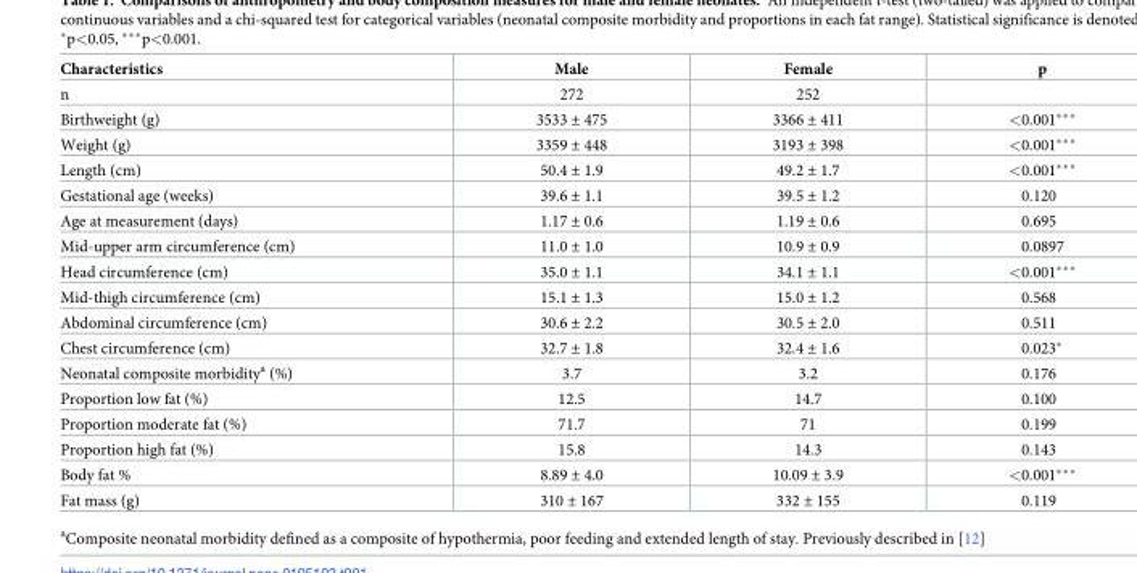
<table><thead><tr><td>Characteristics</td><td>Male</td><td>Female</td><td>p</td></tr></thead><tbody><tr><td>n</td><td>272</td><td>252</td><td></td></tr><tr><td>Birthweight (g)</td><td>3533 ± 475</td><td>3366 ± 411</td><td>&lt;0.001***</td></tr><tr><td>Weight (g)</td><td>3359 ± 448</td><td>3193 ± 398</td><td>&lt;0.001***</td></tr><tr><td>Length (cm)</td><td>50.4 ± 1.9</td><td>49.2 ± 1.7</td><td>&lt;0.001***</td></tr><tr><td>Gestational age (weeks)</td><td>39.6 ± 1.1</td><td>39.5 ± 1.2</td><td>0.120</td></tr><tr><td>Age at measurement (days)</td><td>1.17 ± 0.6</td><td>1.19 ± 0.6</td><td>0.695</td></tr><tr><td>Mid-upper arm circumference (cm)</td><td>11.0 ± 1.0</td><td>10.9 ± 0.9</td><td>0.0897</td></tr><tr><td>Head circumference (cm)</td><td>35.0 ± 1.1</td><td>34.1 ± 1.1</td><td>&lt;0.001***</td></tr><tr><td>Mid-thigh circumference (cm)</td><td>15.1 ± 1.3</td><td>15.0 ± 1.2</td><td>0.568</td></tr><tr><td>Abdominal circumference (cm)</td><td>30.6 ± 2.2</td><td>30.5 ± 2.0</td><td>0.511</td></tr><tr><td>Chest circumference (cm)</td><td>32.7 ± 1.8</td><td>32.4 ± 1.6</td><td>0.023*</td></tr><tr><td>Neonatal composite morbidity<sup>a</sup> (%)</td><td>3.7</td><td>3.2</td><td>0.176</td></tr><tr><td>Proportion low fat (%)</td><td>12.5</td><td>14.7</td><td>0.100</td></tr><tr><td>Proportion moderate fat (%)</td><td>71.7</td><td>71</td><td>0.199</td></tr><tr><td>Proportion high fat (%)</td><td>15.8</td><td>14.3</td><td>0.143</td></tr><tr><td>Body fat %</td><td>8.89 ± 4.0</td><td>10.09 ± 3.9</td><td>&lt;0.001***</td></tr><tr><td>Fat mass (g)</td><td>310 ± 167</td><td>332 ± 155</td><td>0.119</td></tr></tbody></table>